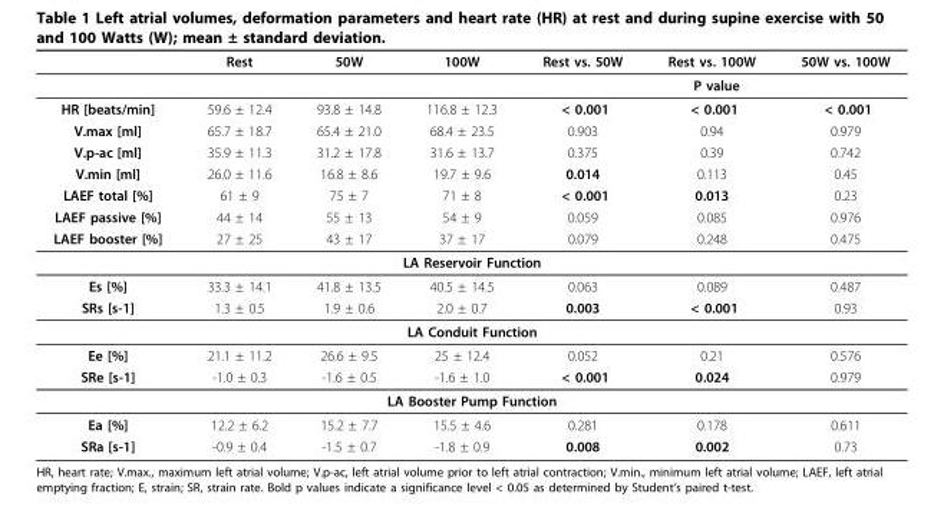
<table><thead><tr><td rowspan="2"></td><td rowspan="2">Rest</td><td rowspan="2">50W</td><td rowspan="2">100W</td><td>Rest vs. 50W</td><td>Rest vs. 100W</td><td>50W vs. 100W</td></tr><tr><td colspan="3">P value</td></tr></thead><tbody><tr><td>HR [beats/min]</td><td>59.6 ± 12.4</td><td>93.8 ± 14.8</td><td>116.8 ± 12.3</td><td>&lt; 0.001</td><td>&lt; 0.001</td><td>&lt; 0.001</td></tr><tr><td>V.max [ml]</td><td>65.7 ± 18.7</td><td>65.4 ± 21.0</td><td>68.4 ± 23.5</td><td>0.903</td><td>0.94</td><td>0.979</td></tr><tr><td>V.p-ac [ml]</td><td>35.9 ± 11.3</td><td>31.2 ± 17.8</td><td>31.6 ± 13.7</td><td>0.375</td><td>0.39</td><td>0.742</td></tr><tr><td>V.min [ml]</td><td>26.0 ± 11.6</td><td>16.8 ± 8.6</td><td>19.7 ± 9.6</td><td>0.014</td><td>0.113</td><td>0.45</td></tr><tr><td>LAEF total [%]</td><td>61 ± 9</td><td>75 ± 7</td><td>71 ± 8</td><td>&lt; 0.001</td><td>0.013</td><td>0.23</td></tr><tr><td>LAEF passive [%]</td><td>44 ± 14</td><td>55 ± 13</td><td>54 ± 9</td><td>0.059</td><td>0.085</td><td>0.976</td></tr><tr><td>LAEF booster [%]</td><td>27 ± 25</td><td>43 ± 17</td><td>37 ± 17</td><td>0.079</td><td>0.248</td><td>0.475</td></tr><tr><td colspan="7">LA Reservoir Function</td></tr><tr><td>Es [%]</td><td>33.3 ± 14.1</td><td>41.8 ± 13.5</td><td>40.5 ± 14.5</td><td>0.063</td><td>0.089</td><td>0.487</td></tr><tr><td>SRs [s-1]</td><td>1.3 ± 0.5</td><td>1.9 ± 0.6</td><td>2.0 ± 0.7</td><td>0.003</td><td>&lt; 0.001</td><td>0.93</td></tr><tr><td colspan="7">LA Conduit Function</td></tr><tr><td>Ee [%]</td><td>21.1 ± 11.2</td><td>26.6 ± 9.5</td><td>25 ± 12.4</td><td>0.052</td><td>0.21</td><td>0.576</td></tr><tr><td>SRe [s-1]</td><td>-1.0 ± 0.3</td><td>-1.6 ± 0.5</td><td>-1.6 ± 1.0</td><td>&lt; 0.001</td><td>0.024</td><td>0.979</td></tr><tr><td colspan="7">LA Booster Pump Function</td></tr><tr><td>Ea [%]</td><td>12.2 ± 6.2</td><td>15.2 ± 7.7</td><td>15.5 ± 4.6</td><td>0.281</td><td>0.178</td><td>0.611</td></tr><tr><td>SRa [s-1]</td><td>-0.9 ± 0.4</td><td>-1.5 ± 0.7</td><td>-1.8 ± 0.9</td><td>0.008</td><td>0.002</td><td>0.73</td></tr></tbody></table>